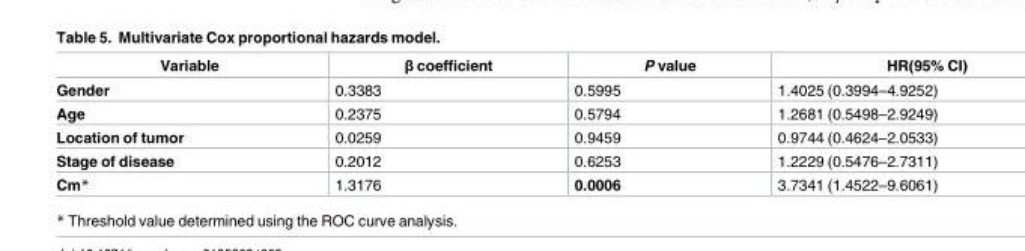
<table><thead><tr><td>Variable</td><td>β coefficient</td><td>P value</td><td>HR(95% CI)</td></tr></thead><tbody><tr><td>Gender</td><td>0.3383</td><td>0.5995</td><td>1.4025 (0.3994–4.9252)</td></tr><tr><td>Age</td><td>0.2375</td><td>0.5794</td><td>1.2681 (0.5498–2.9249)</td></tr><tr><td>Location of tumor</td><td>0.0259</td><td>0.9459</td><td>0.9744 (0.4624–2.0533)</td></tr><tr><td>Stage of disease</td><td>0.2012</td><td>0.6253</td><td>1.2229 (0.5476–2.7311)</td></tr><tr><td>Cm*</td><td>1.3176</td><td>0.0006</td><td>3.7341 (1.4522–9.6061)</td></tr></tbody></table>